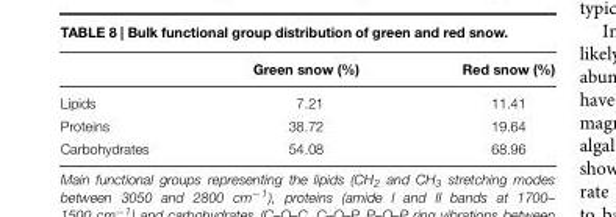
<table><thead><tr><td></td><td>Green snow (%)</td><td>Red snow (%)</td></tr></thead><tbody><tr><td>Lipids</td><td>7.21</td><td>11.41</td></tr><tr><td>Proteins</td><td>38.72</td><td>19.64</td></tr><tr><td>Carbohydrates</td><td>54.08</td><td>68.96</td></tr></tbody></table>